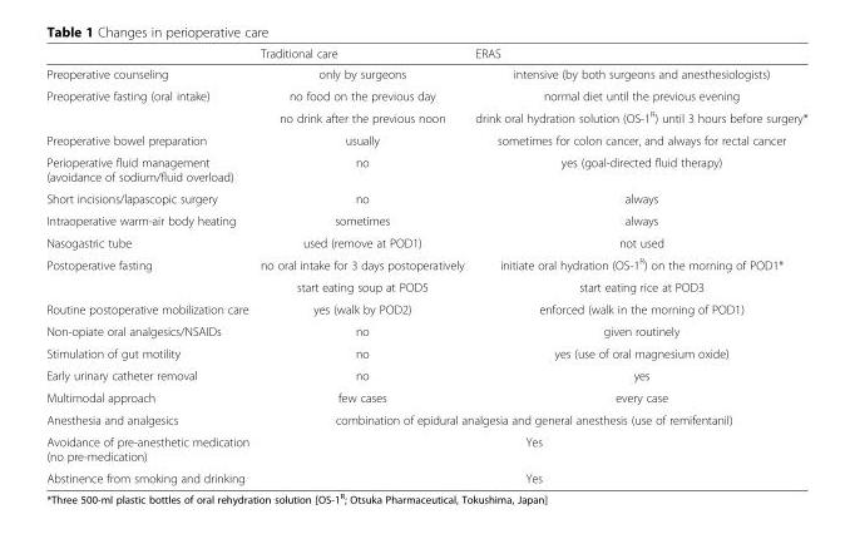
<table><thead><tr><td></td><td>Traditional care</td><td>ERAS</td></tr></thead><tbody><tr><td>Preoperative counseling</td><td>only by surgeons</td><td>intensive (by both surgeons and anesthesiologists)</td></tr><tr><td rowspan="2">Preoperative fasting (oral intake)</td><td>no food on the previous day</td><td>normal diet until the previous evening</td></tr><tr><td>no drink after the previous noon</td><td>drink oral hydration solution (OS-1<sup>R</sup>) until 3 hours before surgery*</td></tr><tr><td>Preoperative bowel preparation</td><td>usually</td><td>sometimes for colon cancer, and always for rectal cancer</td></tr><tr><td>Perioperative fluid management (avoidance of sodium/fluid overload)</td><td>no</td><td>yes (goal-directed fluid therapy)</td></tr><tr><td>Short incisions/lapascopic surgery</td><td>no</td><td>always</td></tr><tr><td>Intraoperative warm-air body heating</td><td>sometimes</td><td>always</td></tr><tr><td>Nasogastric tube</td><td>used (remove at POD1)</td><td>not used</td></tr><tr><td rowspan="2">Postoperative fasting</td><td>no oral intake for 3 days postoperatively</td><td>initiate oral hydration (OS-1<sup>R</sup>) on the morning of POD1*</td></tr><tr><td>start eating soup at POD5</td><td>start eating rice at POD3</td></tr><tr><td>Routine postoperative mobilization care</td><td>yes (walk by POD2)</td><td>enforced (walk in the morning of POD1)</td></tr><tr><td>Non-opiate oral analgesics/NSAIDs</td><td>no</td><td>given routinely</td></tr><tr><td>Stimulation of gut motility</td><td>no</td><td>yes (use of oral magnesium oxide)</td></tr><tr><td>Early urinary catheter removal</td><td>no</td><td>yes</td></tr><tr><td>Multimodal approach</td><td>few cases</td><td>every case</td></tr><tr><td>Anesthesia and analgesics</td><td colspan="2">combination of epidural analgesia and general anesthesis (use of remifentanil)</td></tr><tr><td>Avoidance of pre-anesthetic medication (no pre-medication)</td><td colspan="2">Yes</td></tr><tr><td>Abstinence from smoking and drinking</td><td colspan="2">Yes</td></tr></tbody></table>